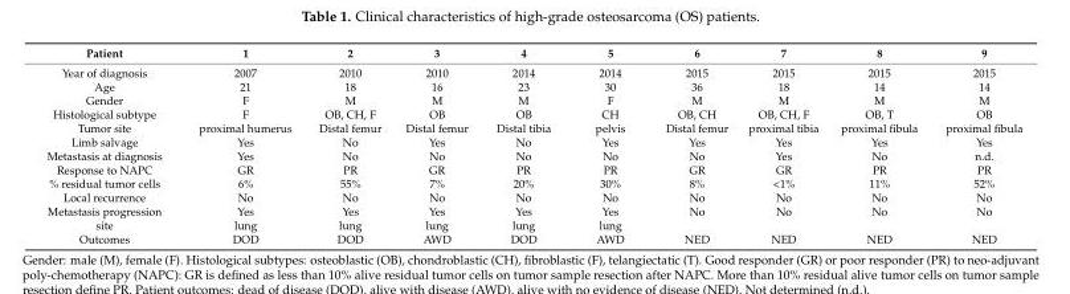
<table><thead><tr><td>Patient</td><td>1</td><td>2</td><td>3</td><td>4</td><td>5</td><td>6</td><td>7</td><td>8</td><td>9</td></tr></thead><tbody><tr><td>Year of diagnosis</td><td>2007</td><td>2010</td><td>2010</td><td>2014</td><td>2014</td><td>2015</td><td>2015</td><td>2015</td><td>2015</td></tr><tr><td>Age</td><td>21</td><td>18</td><td>16</td><td>23</td><td>30</td><td>36</td><td>18</td><td>14</td><td>14</td></tr><tr><td>Gender</td><td>F</td><td>M</td><td>M</td><td>M</td><td>F</td><td>M</td><td>M</td><td>M</td><td>M</td></tr><tr><td>Histological subtype</td><td>F</td><td>OB, CH, F</td><td>OB</td><td>OB</td><td>CH</td><td>OB, CH</td><td>OB, CH, F</td><td>OB, T</td><td>OB</td></tr><tr><td>Tumor site</td><td>proximal humerus</td><td>Distal femur</td><td>Distal femur</td><td>Distal tibia</td><td>pelvis</td><td>Distal femur</td><td>proximal tibia</td><td>proximal fibula</td><td>proximal fibula</td></tr><tr><td>Limb salvage</td><td>Yes</td><td>No</td><td>Yes</td><td>No</td><td>Yes</td><td>Yes</td><td>Yes</td><td>Yes</td><td>Yes</td></tr><tr><td>Metastasis at diagnosis</td><td>Yes</td><td>No</td><td>No</td><td>No</td><td>No</td><td>No</td><td>Yes</td><td>No</td><td>n.d.</td></tr><tr><td>Response to NAPC</td><td>GR</td><td>PR</td><td>GR</td><td>PR</td><td>PR</td><td>GR</td><td>GR</td><td>PR</td><td>PR</td></tr><tr><td>% residual tumor cells</td><td>6%</td><td>55%</td><td>7%</td><td>20%</td><td>30%</td><td>8%</td><td>&lt;1%</td><td>11%</td><td>52%</td></tr><tr><td>Local recurrence</td><td>No</td><td>No</td><td>No</td><td>No</td><td>No</td><td>No</td><td>No</td><td>No</td><td>No</td></tr><tr><td>Metastasis progression</td><td>Yes</td><td>Yes</td><td>Yes</td><td>Yes</td><td>Yes</td><td>No</td><td>No</td><td>No</td><td>No</td></tr><tr><td>site</td><td>lung</td><td>lung</td><td>lung</td><td>lung</td><td>lung</td><td></td><td></td><td></td><td></td></tr><tr><td>Outcomes</td><td>DOD</td><td>DOD</td><td>AWD</td><td>DOD</td><td>AWD</td><td>NED</td><td>NED</td><td>NED</td><td>NED</td></tr></tbody></table>